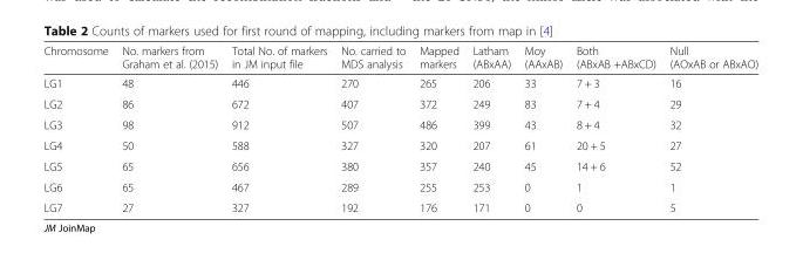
<table><thead><tr><td>Chromosome</td><td>No. markers from Graham et al. (2015)</td><td>Total No. of markers in JM input file</td><td>No. carried to MDS analysis</td><td>Mapped markers</td><td>Latham (ABxAA)</td><td>Moy (AAxAB)</td><td>Both (ABxAB +ABxCD)</td><td>Null (AOxAB or ABxAO)</td></tr></thead><tbody><tr><td>LG1</td><td>48</td><td>446</td><td>270</td><td>265</td><td>206</td><td>33</td><td>7 + 3</td><td>16</td></tr><tr><td>LG2</td><td>86</td><td>672</td><td>407</td><td>372</td><td>249</td><td>83</td><td>7 + 4</td><td>29</td></tr><tr><td>LG3</td><td>98</td><td>912</td><td>507</td><td>486</td><td>399</td><td>43</td><td>8 + 4</td><td>32</td></tr><tr><td>LG4</td><td>50</td><td>588</td><td>327</td><td>320</td><td>207</td><td>61</td><td>20 + 5</td><td>27</td></tr><tr><td>LG5</td><td>65</td><td>656</td><td>380</td><td>357</td><td>240</td><td>45</td><td>14 + 6</td><td>52</td></tr><tr><td>LG6</td><td>65</td><td>467</td><td>289</td><td>255</td><td>253</td><td>0</td><td>1</td><td>1</td></tr><tr><td>LG7</td><td>27</td><td>327</td><td>192</td><td>176</td><td>171</td><td>0</td><td>0</td><td>5</td></tr></tbody></table>